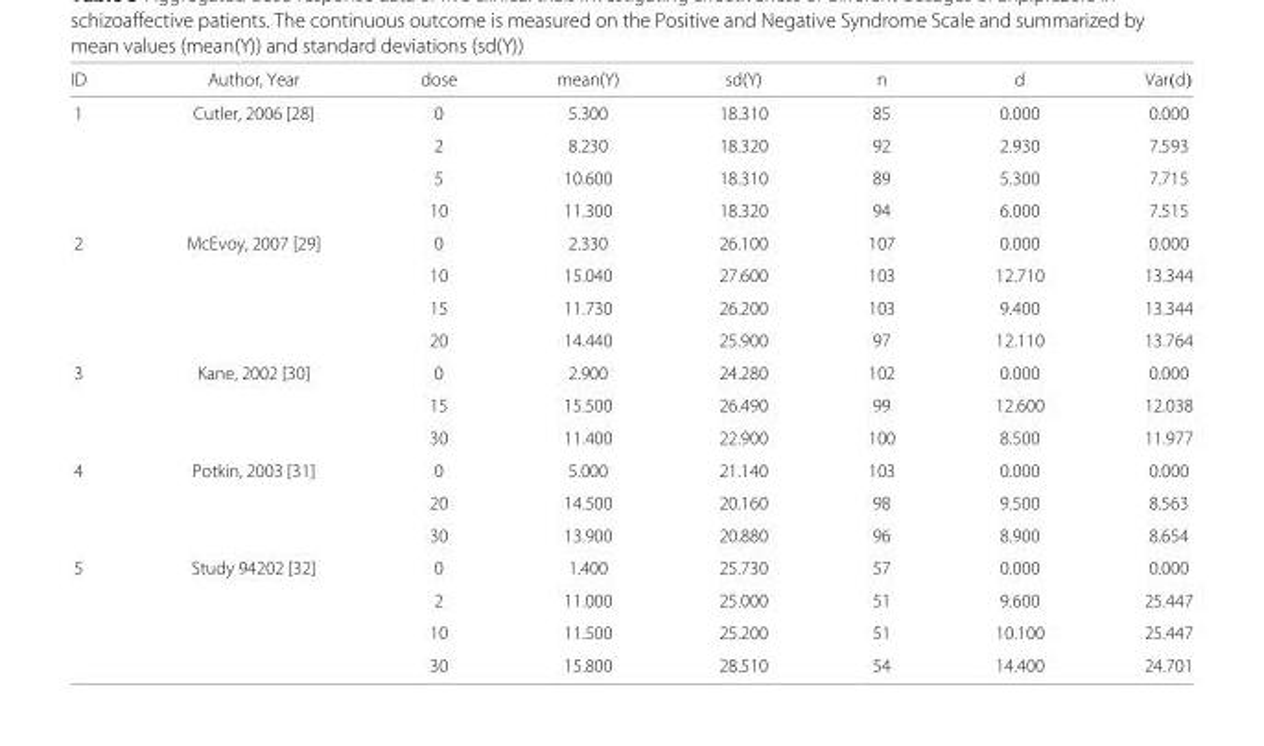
<table><thead><tr><td>ID</td><td>Author, Year</td><td>dose</td><td>mean(Y)</td><td>sd(Y)</td><td>n</td><td>d</td><td>Var(d)</td></tr></thead><tbody><tr><td rowspan="4">1</td><td>Cutler, 2006 [28]</td><td>0</td><td>5.300</td><td>18.310</td><td>85</td><td>0.000</td><td>0.000</td></tr><tr><td></td><td>2</td><td>8.230</td><td>18.320</td><td>92</td><td>2.930</td><td>7.593</td></tr><tr><td></td><td>5</td><td>10.600</td><td>18.310</td><td>89</td><td>5.300</td><td>7.715</td></tr><tr><td></td><td>10</td><td>11.300</td><td>18.320</td><td>94</td><td>6.000</td><td>7.515</td></tr><tr><td rowspan="4">2</td><td>McEvoy, 2007 [29]</td><td>0</td><td>2.330</td><td>26.100</td><td>107</td><td>0.000</td><td>0.000</td></tr><tr><td></td><td>10</td><td>15.040</td><td>27.600</td><td>103</td><td>12.710</td><td>13.344</td></tr><tr><td></td><td>15</td><td>11.730</td><td>26.200</td><td>103</td><td>9.400</td><td>13.344</td></tr><tr><td></td><td>20</td><td>14.440</td><td>25.900</td><td>97</td><td>12.110</td><td>13.764</td></tr><tr><td rowspan="3">3</td><td>Kane, 2002 [30]</td><td>0</td><td>2.900</td><td>24.280</td><td>102</td><td>0.000</td><td>0.000</td></tr><tr><td></td><td>15</td><td>15.500</td><td>26.490</td><td>99</td><td>12.600</td><td>12.038</td></tr><tr><td></td><td>30</td><td>11.400</td><td>22.900</td><td>100</td><td>8.500</td><td>11.977</td></tr><tr><td rowspan="3">4</td><td>Potkin, 2003 [31]</td><td>0</td><td>5.000</td><td>21.140</td><td>103</td><td>0.000</td><td>0.000</td></tr><tr><td></td><td>20</td><td>14.500</td><td>20.160</td><td>98</td><td>9.500</td><td>8.563</td></tr><tr><td></td><td>30</td><td>13.900</td><td>20.880</td><td>96</td><td>8.900</td><td>8.654</td></tr><tr><td rowspan="4">5</td><td>Study 94202 [32]</td><td>0</td><td>1.400</td><td>25.730</td><td>57</td><td>0.000</td><td>0.000</td></tr><tr><td></td><td>2</td><td>11.000</td><td>25.000</td><td>51</td><td>9.600</td><td>25.447</td></tr><tr><td></td><td>10</td><td>11.500</td><td>25.200</td><td>51</td><td>10.100</td><td>25.447</td></tr><tr><td></td><td>30</td><td>15.800</td><td>28.510</td><td>54</td><td>14.400</td><td>24.701</td></tr></tbody></table>